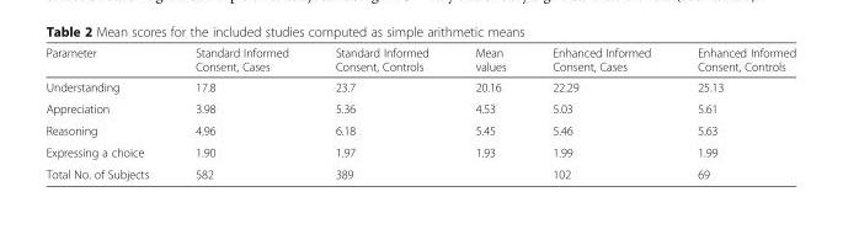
<table><thead><tr><td>Parameter</td><td>Standard Informed Consent, Cases</td><td>Standard Informed Consent, Controls</td><td>Mean values</td><td>Enhanced Informed Consent, Cases</td><td>Enhanced Informed Consent, Controls</td></tr></thead><tbody><tr><td>Understanding</td><td>17.8</td><td>23.7</td><td>20.16</td><td>22.29</td><td>25.13</td></tr><tr><td>Appreciation</td><td>3.98</td><td>5.36</td><td>4.53</td><td>5.03</td><td>5.61</td></tr><tr><td>Reasoning</td><td>4.96</td><td>6.18</td><td>5.45</td><td>5.46</td><td>5.63</td></tr><tr><td>Expressing a choice</td><td>1.90</td><td>1.97</td><td>1.93</td><td>1.99</td><td>1.99</td></tr><tr><td>Total No. of Subjects</td><td>582</td><td>389</td><td></td><td>102</td><td>69</td></tr></tbody></table>